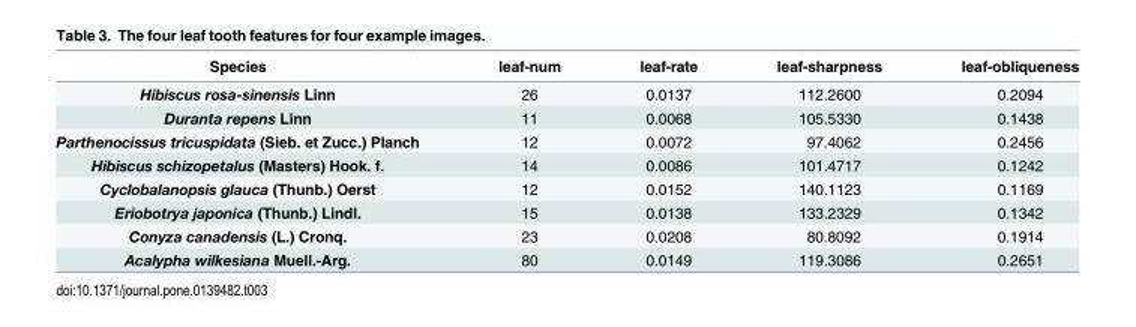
<table><thead><tr><td>Species</td><td>leaf-num</td><td>leaf-rate</td><td>leaf-sharpness</td><td>leaf-obliqueness</td></tr></thead><tbody><tr><td>Hibiscus rosa-sinensis Linn</td><td>26</td><td>0.0137</td><td>112.2600</td><td>0.2094</td></tr><tr><td>Duranta repens Linn</td><td>11</td><td>0.0068</td><td>105.5330</td><td>0.1438</td></tr><tr><td>Parthenocissus tricuspidata (Sieb. et Zucc.) Planch</td><td>12</td><td>0.0072</td><td>97.4062</td><td>0.2456</td></tr><tr><td>Hibiscus schizopetalus (Masters) Hook. f.</td><td>14</td><td>0.0086</td><td>101.4717</td><td>0.1242</td></tr><tr><td>Cyclobalanopsis glauca (Thunb.) Oerst</td><td>12</td><td>0.0152</td><td>140.1123</td><td>0.1169</td></tr><tr><td>Eriobotrya japonica (Thunb.) Lindl.</td><td>15</td><td>0.0138</td><td>133.2329</td><td>0.1342</td></tr><tr><td>Conyza canadensis (L.) Cronq.</td><td>23</td><td>0.0208</td><td>80.8092</td><td>0.1914</td></tr><tr><td>Acalypha wilkesiana Muell.-Arg.</td><td>80</td><td>0.0149</td><td>119.3086</td><td>0.2651</td></tr></tbody></table>